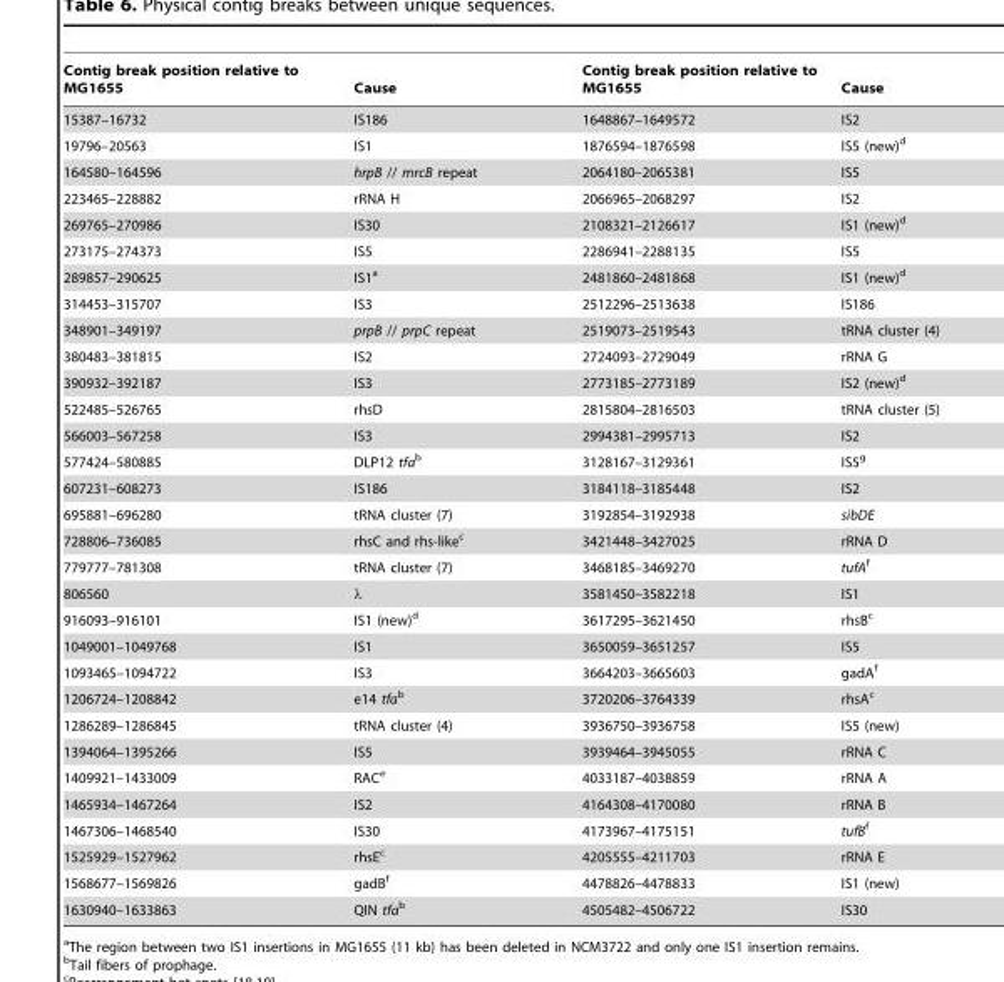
<table><thead><tr><td>Contig break position relative to MG1655</td><td>Cause</td><td>Contig break position relative to MG1655</td><td>Cause</td></tr></thead><tbody><tr><td>15387–16732</td><td>IS186</td><td>1648867–1649572</td><td>IS2</td></tr><tr><td>19796–20563</td><td>IS1</td><td>1876594–1876598</td><td>IS5 (new)<sup>d</sup></td></tr><tr><td>164580–164596</td><td>hrpB // mrcB repeat</td><td>2064180–2065381</td><td>IS5</td></tr><tr><td>223465–228882</td><td>rRNA H</td><td>2066965–2068297</td><td>IS2</td></tr><tr><td>269765–270986</td><td>IS30</td><td>2108321–2126617</td><td>IS1 (new)<sup>d</sup></td></tr><tr><td>273175–274373</td><td>IS5</td><td>2286941–2288135</td><td>IS5</td></tr><tr><td>289857–290625</td><td>IS1<sup>a</sup></td><td>2481860–2481868</td><td>IS1 (new)<sup>d</sup></td></tr><tr><td>314453–315707</td><td>IS3</td><td>2512296–2513638</td><td>IS186</td></tr><tr><td>348901–349197</td><td>prpB // prpC repeat</td><td>2519073–2519543</td><td>tRNA cluster (4)</td></tr><tr><td>380483–381815</td><td>IS2</td><td>2724093–2729049</td><td>rRNA G</td></tr><tr><td>390932–392187</td><td>IS3</td><td>2773185–2773189</td><td>IS2 (new)<sup>d</sup></td></tr><tr><td>522485–526765</td><td>rhsD</td><td>2815804–2816503</td><td>tRNA cluster (5)</td></tr><tr><td>566003–567258</td><td>IS3</td><td>2994381–2995713</td><td>IS2</td></tr><tr><td>577424–580885</td><td>DLP12 tfab</td><td>3128167–3129361</td><td>IS5<sup>g</sup></td></tr><tr><td>607231–608273</td><td>IS186</td><td>3184118–3185448</td><td>IS2</td></tr><tr><td>695881–696280</td><td>tRNA cluster (7)</td><td>3192854–3192938</td><td>sibDE</td></tr><tr><td>728806–736085</td><td>rhsC and rhs-like<sup>c</sup></td><td>3421448–3427025</td><td>rRNA D</td></tr><tr><td>779777–781308</td><td>tRNA cluster (7)</td><td>3468185–3469270</td><td>tufAf</td></tr><tr><td>806560</td><td>λ</td><td>3581450–3582218</td><td>IS1</td></tr><tr><td>916093–916101</td><td>IS1 (new)<sup>d</sup></td><td>3617295–3621450</td><td>rhsB<sup>c</sup></td></tr><tr><td>1049001–1049768</td><td>IS1</td><td>3650059–3651257</td><td>IS5</td></tr><tr><td>1093465–1094722</td><td>IS3</td><td>3664203–3665603</td><td>gadA<sup>f</sup></td></tr><tr><td>1206724–1208842</td><td>e14 tfab</td><td>3720206–3764339</td><td>rhsA<sup>c</sup></td></tr><tr><td>1286289–1286845</td><td>tRNA cluster (4)</td><td>3936750–3936758</td><td>IS5 (new)</td></tr><tr><td>1394064–1395266</td><td>IS5</td><td>3939464–3945055</td><td>rRNA C</td></tr><tr><td>1409921–1433009</td><td>RAC<sup>e</sup></td><td>4033187–4038859</td><td>rRNA A</td></tr><tr><td>1465934–1467264</td><td>IS2</td><td>4164308–4170080</td><td>rRNA B</td></tr><tr><td>1467306–1468540</td><td>IS30</td><td>4173967–4175151</td><td>tufBf</td></tr><tr><td>1525929–1527962</td><td>rhsE<sup>c</sup></td><td>4205555–4211703</td><td>rRNA E</td></tr><tr><td>1568677–1569826</td><td>gadB<sup>f</sup></td><td>4478826–4478833</td><td>IS1 (new)</td></tr><tr><td>1630940–1633863</td><td>QIN tfab</td><td>4505482–4506722</td><td>IS30</td></tr></tbody></table>